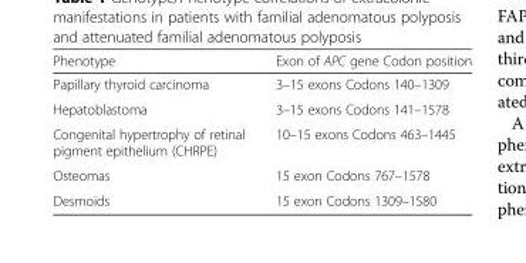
<table><thead><tr><td>Phenotype</td><td>Exon of APC gene Codon position</td></tr></thead><tbody><tr><td>Papillary thyroid carcinoma</td><td>3–15 exons Codons 140–1309</td></tr><tr><td>Hepatoblastoma</td><td>3–15 exons Codons 141–1578</td></tr><tr><td>Congenital hypertrophy of retinal pigment epithelium (CHRPE)</td><td>10–15 exons Codons 463–1445</td></tr><tr><td>Osteomas</td><td>15 exon Codons 767–1578</td></tr><tr><td>Desmoids</td><td>15 exon Codons 1309–1580</td></tr></tbody></table>